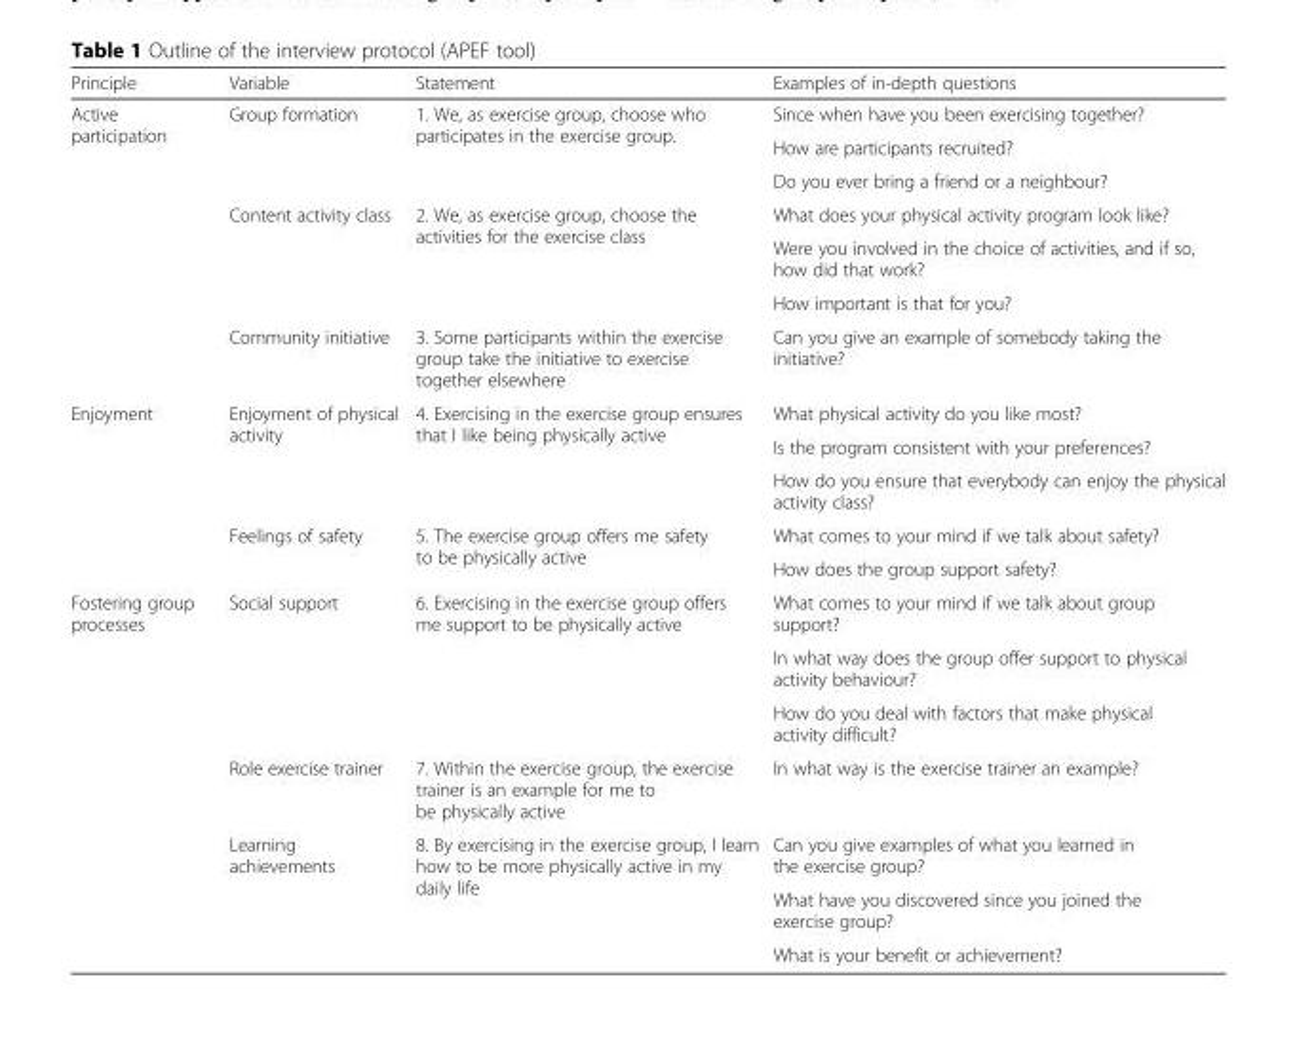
<table><thead><tr><td>Principle</td><td>Variable</td><td>Statement</td><td>Examples of in-depth questions</td></tr></thead><tbody><tr><td rowspan="7">Active participation</td><td rowspan="3">Group formation</td><td rowspan="3">1. We, as exercise group, choose who participates in the exercise group.</td><td>Since when have you been exercising together?</td></tr><tr><td>How are participants recruited?</td></tr><tr><td>Do you ever bring a friend or a neighbour?</td></tr><tr><td rowspan="3">Content activity class</td><td rowspan="3">2. We, as exercise group, choose the activities for the exercise class</td><td>What does your physical activity program look like?</td></tr><tr><td>Were you involved in the choice of activities, and if so, how did that work?</td></tr><tr><td>How important is that for you?</td></tr><tr><td>Community initiative</td><td>3. Some participants within the exercise group take the initiative to exercise together elsewhere</td><td>Can you give an example of somebody taking the initiative?</td></tr><tr><td rowspan="5">Enjoyment</td><td rowspan="3">Enjoyment of physical activity</td><td rowspan="3">4. Exercising in the exercise group ensures that I like being physically active</td><td>What physical activity do you like most?</td></tr><tr><td>Is the program consistent with your preferences?</td></tr><tr><td>How do you ensure that everybody can enjoy the physical activity class?</td></tr><tr><td rowspan="2">Feelings of safety</td><td rowspan="2">5. The exercise group offers me safety to be physically active</td><td>What comes to your mind if we talk about safety?</td></tr><tr><td>How does the group support safety?</td></tr><tr><td rowspan="7">Fostering group processes</td><td rowspan="3">Social support</td><td rowspan="3">6. Exercising in the exercise group offers me support to be physically active</td><td>What comes to your mind if we talk about group support?</td></tr><tr><td>In what way does the group offer support to physical activity behaviour?</td></tr><tr><td>How do you deal with factors that make physical activity difficult?</td></tr><tr><td>Role exercise trainer</td><td>7. Within the exercise group, the exercise trainer is an example for me to be physically active</td><td>In what way is the exercise trainer an example?</td></tr><tr><td rowspan="3">Learning achievements</td><td rowspan="3">8. By exercising in the exercise group, I learn how to be more physically active in my daily life</td><td>Can you give examples of what you learned in the exercise group?</td></tr><tr><td>What have you discovered since you joined the exercise group?</td></tr><tr><td>What is your benefit or achievement?</td></tr></tbody></table>